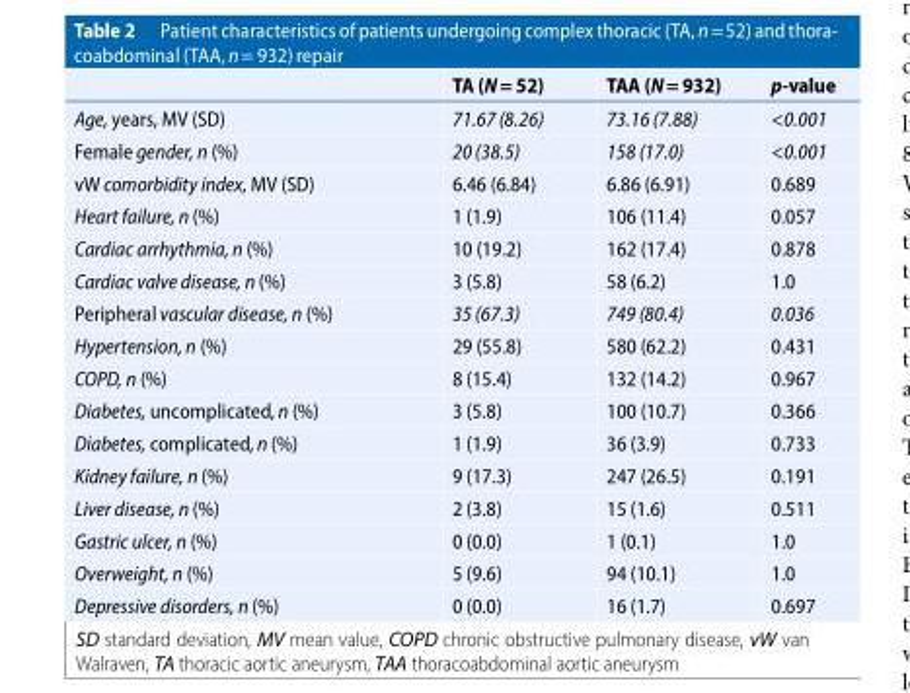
<table><thead><tr><td></td><td>TA (N= 52)</td><td>TAA (N= 932)</td><td>p-value</td></tr></thead><tbody><tr><td>Age, years, MV (SD)</td><td>71.67(8.26)</td><td>73.16(7.88)</td><td>&lt;0.001</td></tr><tr><td>Female gender, n (%)</td><td>20 (38.5)</td><td>158 (17.0)</td><td>&lt;0.001</td></tr><tr><td>vW comorbidity index, MV (SD)</td><td>6.46 (6.84)</td><td>6.86 (6.91)</td><td>0.689</td></tr><tr><td>Heart failure, n (%)</td><td>1 (1.9)</td><td>106 (11.4)</td><td>0.057</td></tr><tr><td>Cardiac arrhythmia, n (%)</td><td>10 (19.2)</td><td>162 (17.4)</td><td>0.878</td></tr><tr><td>Cardiac valve disease, n (%)</td><td>3 (5.8)</td><td>58 (6.2)</td><td>1.0</td></tr><tr><td>Peripheral vascular disease, n (%)</td><td>35 (67.3)</td><td>749 (80.4)</td><td>0.036</td></tr><tr><td>Hypertension,n (%)</td><td>29 (55.8)</td><td>580 (62.2)</td><td>0.431</td></tr><tr><td>COPD, n (%)</td><td>8 (15.4)</td><td>132 (14.2)</td><td>0.967</td></tr><tr><td>Diabetes, uncomplicated,n (%)</td><td>3 (5.8)</td><td>100 (10.7)</td><td>0.366</td></tr><tr><td>Diabetes, complicated,n (%)</td><td>1 (1.9)</td><td>36 (3.9)</td><td>0.733</td></tr><tr><td>Kidney failure, n (%)</td><td>9 (17.3)</td><td>247 (26.5)</td><td>0.191</td></tr><tr><td>Liver disease, n (%)</td><td>2 (3.8)</td><td>15 (1.6)</td><td>0.511</td></tr><tr><td>Gastric ulcer, n (%)</td><td>0 (0.0)</td><td>1 (0.1)</td><td>1.0</td></tr><tr><td>Overweight, n (%)</td><td>5 (9.6)</td><td>94 (10.1)</td><td>1.0</td></tr><tr><td>Depressive disorders, n (%)</td><td>0 (0.0)</td><td>16 (1.7)</td><td>0.697</td></tr></tbody></table>